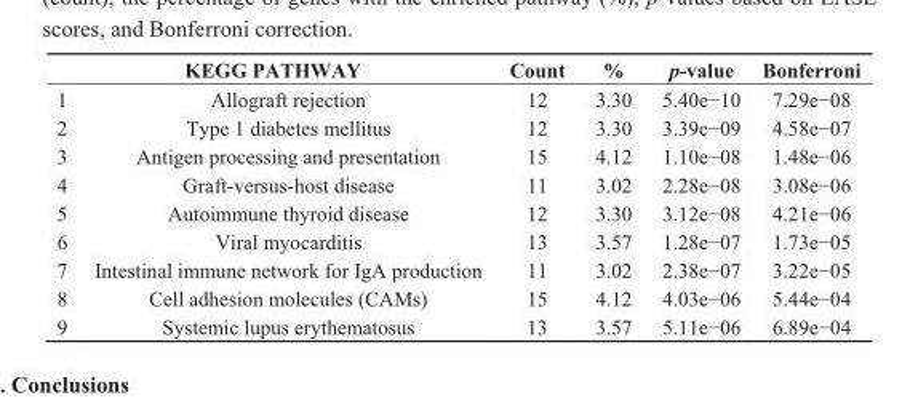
<table><thead><tr><td colspan="2">KEGG PATHWAY</td><td rowspan="2">Count 12</td><td rowspan="2">% 3.30</td><td rowspan="2">p-value 5.40e−10</td><td rowspan="2">Bonferroni 7.29e−08</td></tr><tr><td>1</td><td>Allograft rejection</td></tr></thead><tbody><tr><td>2</td><td>Type 1 diabetes mellitus</td><td>12</td><td>3.30</td><td>3.39e−09</td><td>4.58e−07</td></tr><tr><td>3</td><td>Antigen processing and presentation</td><td>15</td><td>4.12</td><td>1.10e−08</td><td>1.48e−06</td></tr><tr><td>4</td><td>Graft-versus-host disease</td><td>11</td><td>3.02</td><td>2.28e−08</td><td>3.08e−06</td></tr><tr><td>5</td><td>Autoimmune thyroid disease</td><td>12</td><td>3.30</td><td>3.12e−08</td><td>4.21e−06</td></tr><tr><td>6</td><td>Viral myocarditis</td><td>13</td><td>3.57</td><td>1.28e−07</td><td>1.73e−05</td></tr><tr><td>7</td><td>Intestinal immune network for IgA production</td><td>11</td><td>3.02</td><td>2.38e−07</td><td>3.22e−05</td></tr><tr><td>8</td><td>Cell adhesion molecules (CAMs)</td><td>15</td><td>4.12</td><td>4.03e−06</td><td>5.44e−04</td></tr><tr><td>9</td><td>Systemic lupus erythematosus</td><td>13</td><td>3.57</td><td>5.11e−06</td><td>6.89e−04</td></tr></tbody></table>